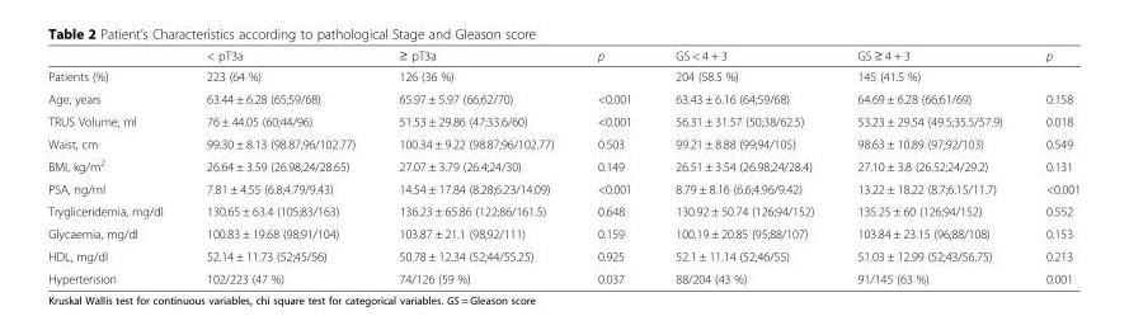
<table><thead><tr><td></td><td>&lt; pT3a</td><td>≥ pT3a</td><td>p</td><td>GS &lt; 4 + 3</td><td>GS ≥ 4 + 3</td><td>p</td></tr></thead><tbody><tr><td>Patients (%)</td><td>223 (64 %)</td><td>126 (36 %)</td><td></td><td>204 (58.5 %)</td><td>145 (41.5 %)</td><td></td></tr><tr><td>Age, years</td><td>63.44 ± 6.28 (65;59/68)</td><td>65.97 ± 5.97 (66;62/70)</td><td>&lt;0.001</td><td>63.43 ± 6.16 (64;59/68)</td><td>64.69 ± 6.28 (66;61/69)</td><td>0.158</td></tr><tr><td>TRUS Volume, ml</td><td>76 ± 44.05 (60;44/96)</td><td>51.53 ± 29.86 (47;33.6/60)</td><td>&lt;0.001</td><td>56.31 ± 31.57 (50;38/62.5)</td><td>53.23 ± 29.54 (49.5;35.5/57.9)</td><td>0.018</td></tr><tr><td>Waist, cm</td><td>99.30 ± 8.13 (98.87;96/102.77)</td><td>100.34 ± 9.22 (98.87;96/102.77)</td><td>0.503</td><td>99.21 ± 8.88 (99;94/105)</td><td>98.63 ± 10.89 (97;92/103)</td><td>0.549</td></tr><tr><td>BMI, kg/m<sup>2</sup></td><td>26.64 ± 3.59 (26.98;24/28.65)</td><td>27.07 ± 3.79 (26.4;24/30)</td><td>0.149</td><td>26.51 ± 3.54 (26.98;24/28.4)</td><td>27.10 ± 3.8 (26.52;24/29.2)</td><td>0.131</td></tr><tr><td>PSA, ng/ml</td><td>7.81 ± 4.55 (6.8;4.79/9.43)</td><td>14.54 ± 17.84 (8.28;6.23/14.09)</td><td>&lt;0.001</td><td>8.79 ± 8.16 (6.6;4.96/9.42)</td><td>13.22 ± 18.22 (8.7;6.15/11.7)</td><td>&lt;0.001</td></tr><tr><td>Trygliceridemia, mg/dl</td><td>130.65 ± 63.4 (105;83/163)</td><td>136.23 ± 65.86 (122;86/161.5)</td><td>0.648</td><td>130.92 ± 50.74 (126;94/152)</td><td>135.25 ± 60 (126;94/152)</td><td>0.552</td></tr><tr><td>Glycaemia, mg/dl</td><td>100.83 ± 19.68 (98;91/104)</td><td>103.87 ± 21.1 (98;92/111)</td><td>0.159</td><td>100.19 ± 20.85 (95;88/107)</td><td>103.84 ± 23.15 (96;88/108)</td><td>0.153</td></tr><tr><td>HDL, mg/dl</td><td>52.14 ± 11.73 (52;45/56)</td><td>50.78 ± 12.34 (52;44/55.25)</td><td>0.925</td><td>52.1 ± 11.14 (52;46/55)</td><td>51.03 ± 12.99 (52;43/56.75)</td><td>0.213</td></tr><tr><td>Hypertension</td><td>102/223 (47 %)</td><td>74/126 (59 %)</td><td>0.037</td><td>88/204 (43 %)</td><td>91/145 (63 %)</td><td>0.001</td></tr></tbody></table>